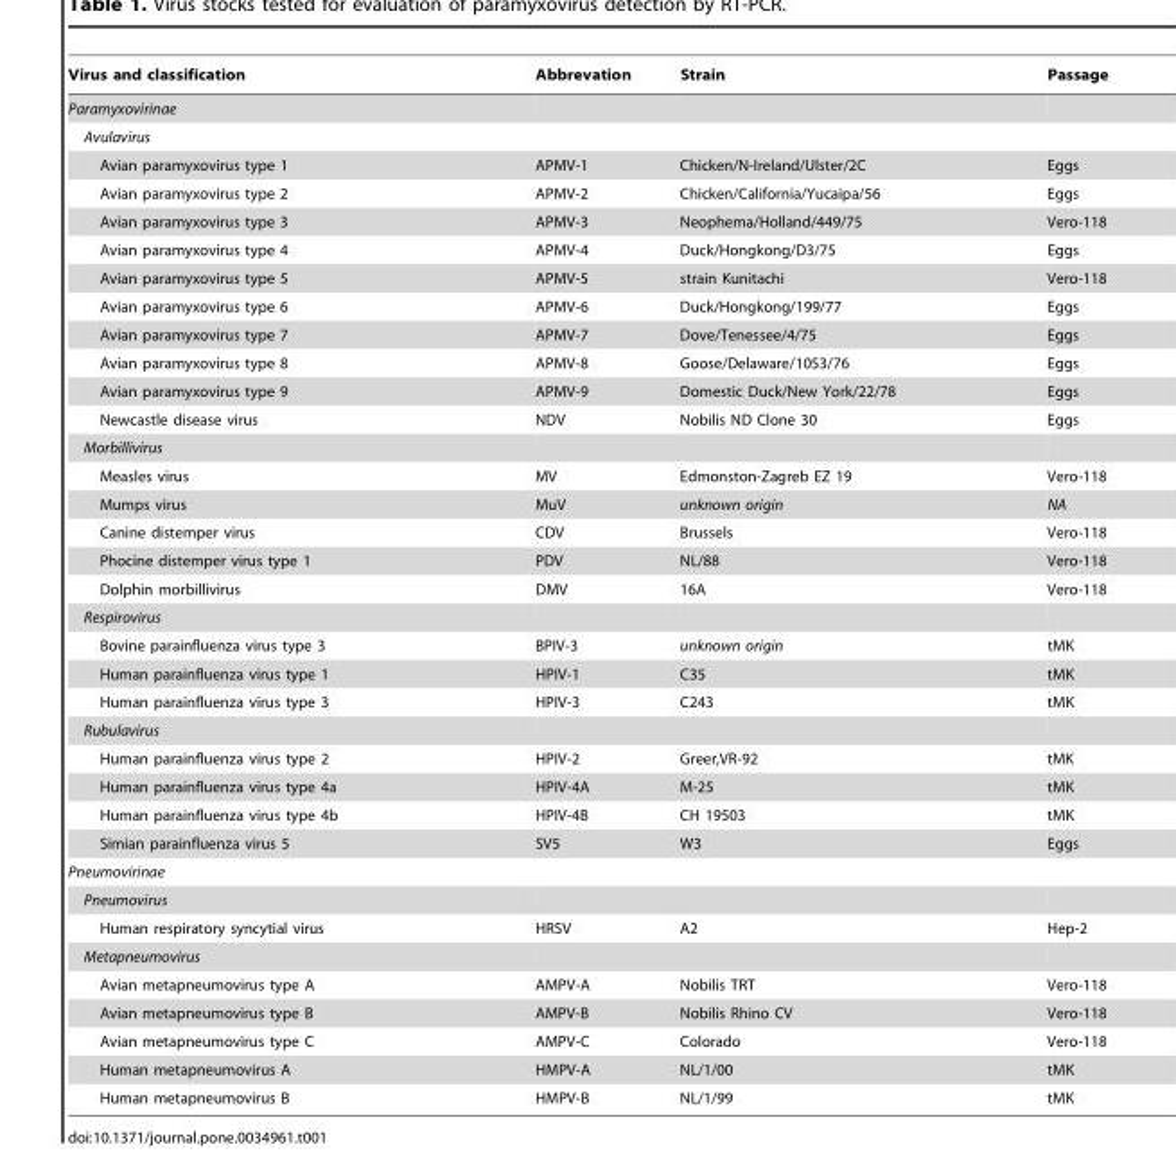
<table><thead><tr><td>Virus and classification</td><td>Abbrevation</td><td>Strain</td><td>Passage</td></tr></thead><tbody><tr><td colspan="4">Paramyxovirinae</td></tr><tr><td colspan="4">Avulavirus</td></tr><tr><td>Avian paramyxovirus type 1</td><td>APMV-1</td><td>Chicken/N-Ireland/Ulster/2C</td><td>Eggs</td></tr><tr><td>Avian paramyxovirus type 2</td><td>APMV-2</td><td>Chicken/California/Yucaipa/56</td><td>Eggs</td></tr><tr><td>Avian paramyxovirus type 3</td><td>APMV-3</td><td>Neophema/Holland/449/75</td><td>Vero-118</td></tr><tr><td>Avian paramyxovirus type 4</td><td>APMV-4</td><td>Duck/Hongkong/D3/75</td><td>Eggs</td></tr><tr><td>Avian paramyxovirus type 5</td><td>APMV-5</td><td>strain Kunitachi</td><td>Vero-118</td></tr><tr><td>Avian paramyxovirus type 6</td><td>APMV-6</td><td>Duck/Hongkong/199/77</td><td>Eggs</td></tr><tr><td>Avian paramyxovirus type 7</td><td>APMV-7</td><td>Dove/Tenessee/4/75</td><td>Eggs</td></tr><tr><td>Avian paramyxovirus type 8</td><td>APMV-8</td><td>Goose/Delaware/1053/76</td><td>Eggs</td></tr><tr><td>Avian paramyxovirus type 9</td><td>APMV-9</td><td>Domestic Duck/New York/22/78</td><td>Eggs</td></tr><tr><td>Newcastle disease virus</td><td>NDV</td><td>Nobilis ND Clone 30</td><td>Eggs</td></tr><tr><td colspan="4">Morbillivirus</td></tr><tr><td>Measles virus</td><td>MV</td><td>Edmonston-Zagreb EZ 19</td><td>Vero-118</td></tr><tr><td>Mumps virus</td><td>MuV</td><td>unknown origin</td><td>NA</td></tr><tr><td>Canine distemper virus</td><td>CDV</td><td>Brussels</td><td>Vero-118</td></tr><tr><td>Phocine distemper virus type 1</td><td>PDV</td><td>NL/88</td><td>Vero-118</td></tr><tr><td>Dolphin morbillivirus</td><td>DMV</td><td>16A</td><td>Vero-118</td></tr><tr><td colspan="4">Respirovirus</td></tr><tr><td>Bovine parainfluenza virus type 3</td><td>BPIV-3</td><td>unknown origin</td><td>tMK</td></tr><tr><td>Human parainfluenza virus type 1</td><td>HPIV-1</td><td>C35</td><td>tMK</td></tr><tr><td>Human parainfluenza virus type 3</td><td>HPIV-3</td><td>C243</td><td>tMK</td></tr><tr><td colspan="4">Rubulavirus</td></tr><tr><td>Human parainfluenza virus type 2</td><td>HPIV-2</td><td>Greer,VR-92</td><td>tMK</td></tr><tr><td>Human parainfluenza virus type 4a</td><td>HPIV-4A</td><td>M-25</td><td>tMK</td></tr><tr><td>Human parainfluenza virus type 4b</td><td>HPIV-4B</td><td>CH 19503</td><td>tMK</td></tr><tr><td>Simian parainfluenza virus 5</td><td>SV5</td><td>W3</td><td>Eggs</td></tr><tr><td colspan="4">Pneumovirinae</td></tr><tr><td colspan="4">Pneumovirus</td></tr><tr><td>Human respiratory syncytial virus</td><td>HRSV</td><td>A2</td><td>Hep-2</td></tr><tr><td colspan="4">Metapneumovirus</td></tr><tr><td>Avian metapneumovirus type A</td><td>AMPV-A</td><td>Nobilis TRT</td><td>Vero-118</td></tr><tr><td>Avian metapneumovirus type B</td><td>AMPV-B</td><td>Nobilis Rhino CV</td><td>Vero-118</td></tr><tr><td>Avian metapneumovirus type C</td><td>AMPV-C</td><td>Colorado</td><td>Vero-118</td></tr><tr><td>Human metapneumovirus A</td><td>HMPV-A</td><td>NL/1/00</td><td>tMK</td></tr><tr><td>Human metapneumovirus B</td><td>HMPV-B</td><td>NL/1/99</td><td>tMK</td></tr></tbody></table>